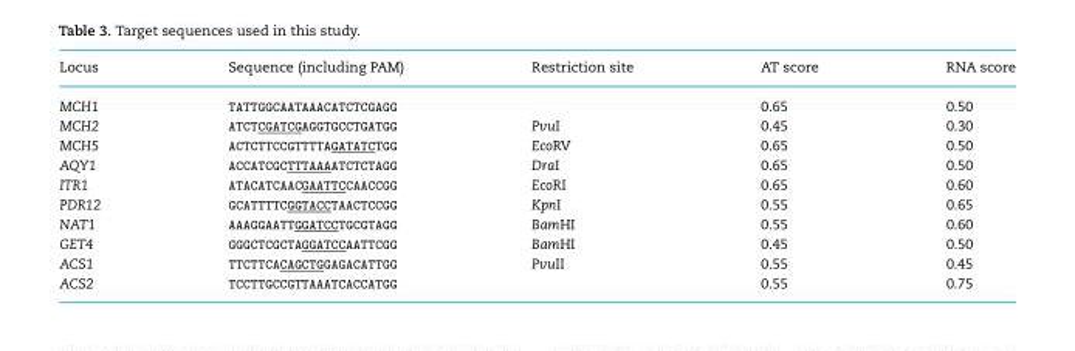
<table><thead><tr><td>Locus</td><td>Sequence (including PAM)</td><td>Restriction site</td><td>AT score</td><td>RNA score</td></tr></thead><tbody><tr><td>MCH1</td><td>TATTGGCAATAAACATCTCGAGG</td><td></td><td>0.65</td><td>0.50</td></tr><tr><td>MCH2</td><td>ATCTCGATCGAGGTGCCTGATGG</td><td>PvuI</td><td>0.45</td><td>0.30</td></tr><tr><td>MCH5</td><td>ACTCTTCCGTTTTAGATATCTGG</td><td>EcoRV</td><td>0.65</td><td>0.50</td></tr><tr><td>AQY1</td><td>ACCATCGCTTTAAAATCTCTAGG</td><td>DraI</td><td>0.65</td><td>0.50</td></tr><tr><td>ITR1</td><td>ATACATCAACGAATTCCAACCGG</td><td>EcoRI</td><td>0.65</td><td>0.60</td></tr><tr><td>PDR12</td><td>GCATTTTCGGTACCTAACTCCGG</td><td>KpnI</td><td>0.55</td><td>0.65</td></tr><tr><td>NAT1</td><td>AAAGGAATTGGATCCTGCGTAGG</td><td>BamHI</td><td>0.55</td><td>0.60</td></tr><tr><td>GET4</td><td>GGGCTCGCTAGGATCCAATTCGG</td><td>BamHI</td><td>0.45</td><td>0.50</td></tr><tr><td>ACS1</td><td>TTCTTCACAGCTGGAGACATTGG</td><td>PvuII</td><td>0.55</td><td>0.45</td></tr><tr><td>ACS2</td><td>TCCTTGCCGTTAAATCACCATGG</td><td></td><td>0.55</td><td>0.75</td></tr></tbody></table>